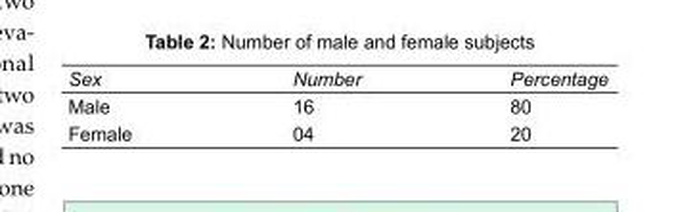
<table><tbody><tr><td>Sex</td><td>Number</td><td>Percentage</td></tr><tr><td>Male</td><td>16</td><td>80</td></tr><tr><td>Female</td><td>04</td><td>20</td></tr></tbody></table>